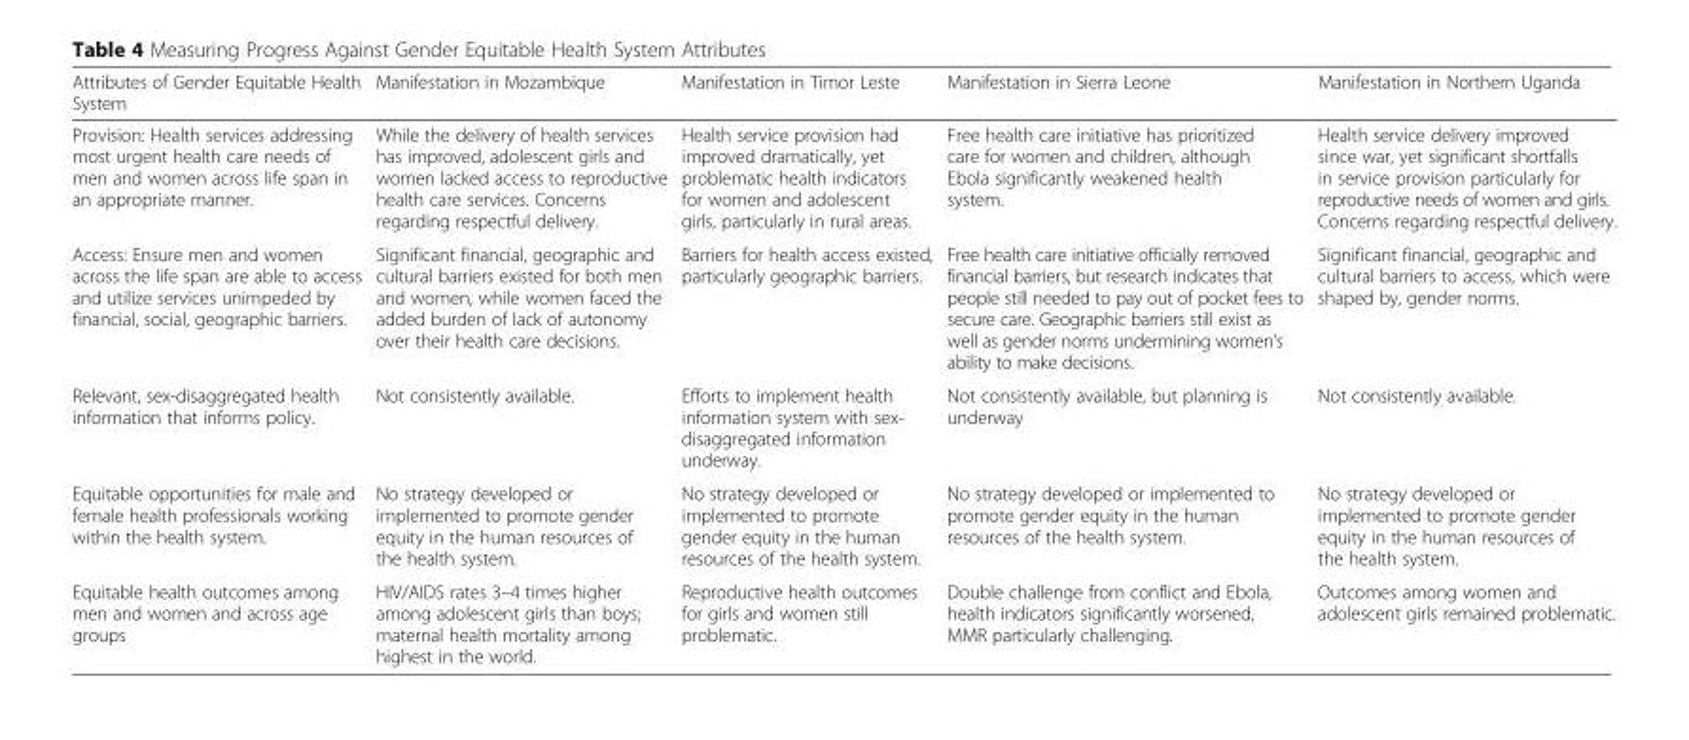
<table><thead><tr><td>Attributes of Gender Equitable Health System</td><td>Manifestation in Mozambique</td><td>Manifestation in Timor Leste</td><td>Manifestation in Sierra Leone</td><td>Manifestation in Northern Uganda</td></tr></thead><tbody><tr><td>Provision: Health services addressing most urgent health care needs of men and women across life span in an appropriate manner.</td><td>While the delivery of health services has improved, adolescent girls and women lacked access to reproductive health care services. Concerns regarding respectful delivery.</td><td>Health service provision had improved dramatically, yet problematic health indicators for women and adolescent girls, particularly in rural areas.</td><td>Free health care initiative has prioritized care for women and children, although Ebola significantly weakened health system.</td><td>Health service delivery improved since war, yet significant shortfalls in service provision particularly for reproductive needs of women and girls. Concerns regarding respectful delivery.</td></tr><tr><td>Access: Ensure men and women across the life span are able to access and utilize services unimpeded by financial, social, geographic barriers.</td><td>Significant financial, geographic and cultural barriers existed for both men and women, while women faced the added burden of lack of autonomy over their health care decisions.</td><td>Barriers for health access existed, particularly geographic barriers.</td><td>Free health care initiative officially removed financial barriers, but research indicates that people still needed to pay out of pocket fees to secure care. Geographic barriers still exist as well as gender norms undermining women’s ability to make decisions.</td><td>Significant financial, geographic and cultural barriers to access, which were shaped by, gender norms.</td></tr><tr><td>Relevant, sex-disaggregated health information that informs policy.</td><td>Not consistently available.</td><td>Efforts to implement health information system with sex- disaggregated information underway.</td><td>Not consistently available, but planning is underway</td><td>Not consistently available.</td></tr><tr><td>Equitable opportunities for male and female health professionals working within the health system.</td><td>No strategy developed or implemented to promote gender equity in the human resources of the health system.</td><td>No strategy developed or implemented to promote gender equity in the human resources of the health system.</td><td>No strategy developed or implemented to promote gender equity in the human resources of the health system.</td><td>No strategy developed or implemented to promote gender equity in the human resources of the health system.</td></tr><tr><td>Equitable health outcomes among men and women and across age groups</td><td>HIV/AIDS rates 3–4 times higher among adolescent girls than boys; maternal health mortality among highest in the world.</td><td>Reproductive health outcomes for girls and women still problematic.</td><td>Double challenge from conflict and Ebola, health indicators significantly worsened, MMR particularly challenging.</td><td>Outcomes among women and adolescent girls remained problematic.</td></tr></tbody></table>